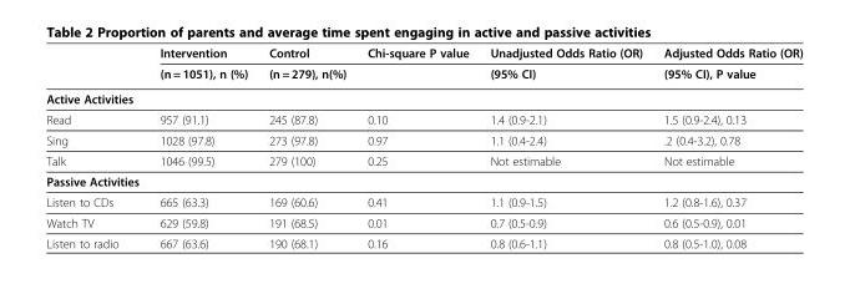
<table><thead><tr><td rowspan="2"></td><td rowspan="2">Intervention (n = 1051), n (%)</td><td rowspan="2">Control (n = 279), n(%)</td><td rowspan="2">Chi-square P value</td><td rowspan="2">Unadjusted Odds Ratio (OR) (95% CI)</td><td rowspan="2">Adjusted Odds Ratio (OR) (95% CI), P value</td></tr><tr></tr></thead><tbody><tr><td colspan="6">Active Activities</td></tr><tr><td>Read</td><td>957 (91.1)</td><td>245 (87.8)</td><td>0.10</td><td>1.4 (0.9-2.1)</td><td>1.5 (0.9-2.4), 0.13</td></tr><tr><td>Sing</td><td>1028 (97.8)</td><td>273 (97.8)</td><td>0.97</td><td>1.1 (0.4-2.4)</td><td>.2 (0.4-3.2), 0.78</td></tr><tr><td>Talk</td><td>1046 (99.5)</td><td>279 (100)</td><td>0.25</td><td>Not estimable</td><td>Not estimable</td></tr><tr><td colspan="6">Passive Activities</td></tr><tr><td>Listen to CDs</td><td>665 (63.3)</td><td>169 (60.6)</td><td>0.41</td><td>1.1 (0.9-1.5)</td><td>1.2 (0.8-1.6), 0.37</td></tr><tr><td>Watch TV</td><td>629 (59.8)</td><td>191 (68.5)</td><td>0.01</td><td>0.7 (0.5-0.9)</td><td>0.6 (0.5-0.9), 0.01</td></tr><tr><td>Listen to radio</td><td>667 (63.6)</td><td>190 (68.1)</td><td>0.16</td><td>0.8 (0.6-1.1)</td><td>0.8 (0.5-1.0), 0.08</td></tr></tbody></table>